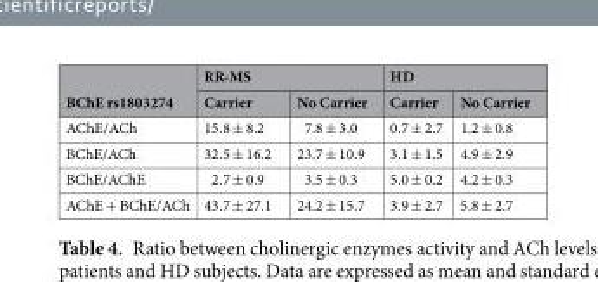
<table><thead><tr><td rowspan="2">BChE rs1803274</td><td colspan="2">RR-MS</td><td colspan="2">HD</td></tr><tr><td>Carrier</td><td>No Carrier</td><td>Carrier</td><td>No Carrier</td></tr></thead><tbody><tr><td>AChE/ACh</td><td>15.8 ± 8.2</td><td>7.8 ± 3.0</td><td>0.7 ± 2.7</td><td>1.2 ± 0.8</td></tr><tr><td>BChE/ACh</td><td>32.5 ± 16.2</td><td>23.7 ± 10.9</td><td>3.1 ± 1.5</td><td>4.9 ± 2.9</td></tr><tr><td>BChE/AChE</td><td>2.7 ± 0.9</td><td>3.5 ± 0.3</td><td>5.0 ± 0.2</td><td>4.2 ± 0.3</td></tr><tr><td>AChE + BChE/ACh</td><td>43.7 ± 27.1</td><td>24.2 ± 15.7</td><td>3.9 ± 2.7</td><td>5.8 ± 2.7</td></tr></tbody></table>